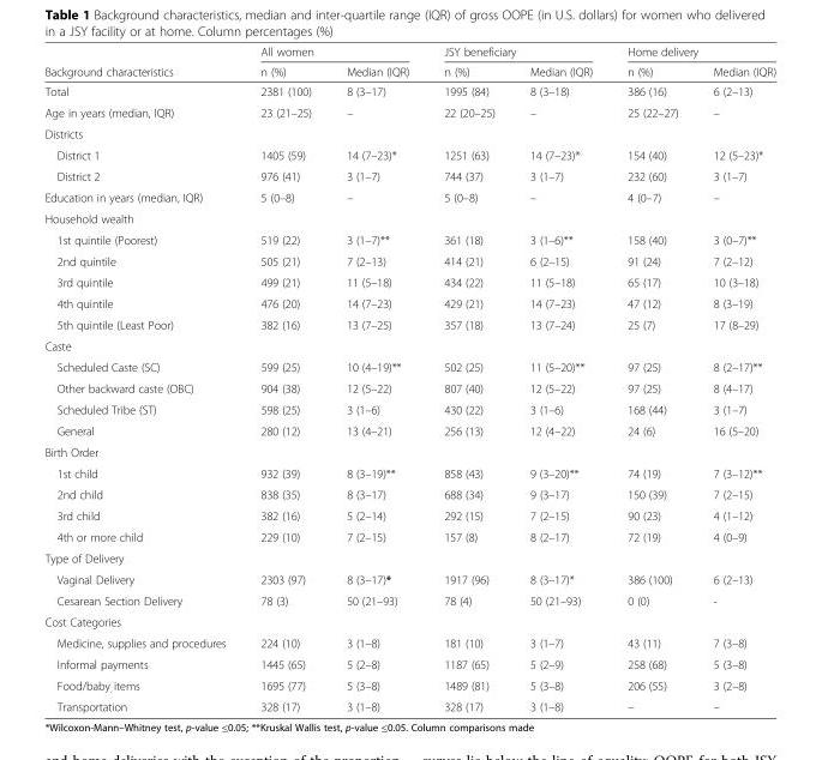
<table><thead><tr><td rowspan="2">Background characteristics</td><td colspan="2">All women</td><td colspan="2">JSY beneficiary</td><td colspan="2">Home delivery</td></tr><tr><td>n (%)</td><td>Median (IQR)</td><td>n (%)</td><td>Median (IQR)</td><td>n (%)</td><td>Median (IQR)</td></tr></thead><tbody><tr><td>Total</td><td>2381 (100)</td><td>8 (3–17)</td><td>1995 (84)</td><td>8 (3–18)</td><td>386 (16)</td><td>6 (2–13)</td></tr><tr><td>Age in years (median, IQR)</td><td>23 (21–25)</td><td>–</td><td>22 (20–25)</td><td>–</td><td>25 (22–27)</td><td>–</td></tr><tr><td colspan="7">Districts</td></tr><tr><td>District 1</td><td>1405 (59)</td><td>14 (7–23)*</td><td>1251 (63)</td><td>14 (7–23)*</td><td>154 (40)</td><td>12 (5–23)*</td></tr><tr><td>District 2</td><td>976 (41)</td><td>3 (1–7)</td><td>744 (37)</td><td>3 (1–7)</td><td>232 (60)</td><td>3 (1–7)</td></tr><tr><td>Education in years (median, IQR)</td><td>5 (0–8)</td><td>–</td><td>5 (0–8)</td><td>–</td><td>4 (0–7)</td><td>–</td></tr><tr><td colspan="7">Household wealth</td></tr><tr><td>1st quintile (Poorest)</td><td>519 (22)</td><td>3 (1–7)**</td><td>361 (18)</td><td>3 (1–6)**</td><td>158 (40)</td><td>3 (0–7)**</td></tr><tr><td>2nd quintile</td><td>505 (21)</td><td>7 (2–13)</td><td>414 (21)</td><td>6 (2–15)</td><td>91 (24)</td><td>7 (2–12)</td></tr><tr><td>3rd quintile</td><td>499 (21)</td><td>11 (5–18)</td><td>434 (22)</td><td>11 (5–18)</td><td>65 (17)</td><td>10 (3–18)</td></tr><tr><td>4th quintile</td><td>476 (20)</td><td>14 (7–23)</td><td>429 (21)</td><td>14 (7–23)</td><td>47 (12)</td><td>8 (3–19)</td></tr><tr><td>5th quintile (Least Poor)</td><td>382 (16)</td><td>13 (7–25)</td><td>357 (18)</td><td>13 (7–24)</td><td>25 (7)</td><td>17 (8–29)</td></tr><tr><td colspan="7">Caste</td></tr><tr><td>Scheduled Caste (SC)</td><td>599 (25)</td><td>10 (4–19)**</td><td>502 (25)</td><td>11 (5–20)**</td><td>97 (25)</td><td>8 (2–17)**</td></tr><tr><td>Other backward caste (OBC)</td><td>904 (38)</td><td>12 (5–22)</td><td>807 (40)</td><td>12 (5–22)</td><td>97 (25)</td><td>8 (4–17)</td></tr><tr><td>Scheduled Tribe (ST)</td><td>598 (25)</td><td>3 (1–6)</td><td>430 (22)</td><td>3 (1–6)</td><td>168 (44)</td><td>3 (1–7)</td></tr><tr><td>General</td><td>280 (12)</td><td>13 (4–21)</td><td>256 (13)</td><td>12 (4–22)</td><td>24 (6)</td><td>16 (5–20)</td></tr><tr><td colspan="7">Birth Order</td></tr><tr><td>1st child</td><td>932 (39)</td><td>8 (3–19)**</td><td>858 (43)</td><td>9 (3–20)**</td><td>74 (19)</td><td>7 (3–12)**</td></tr><tr><td>2nd child</td><td>838 (35)</td><td>8 (3–17)</td><td>688 (34)</td><td>9 (3–17)</td><td>150 (39)</td><td>7 (2–15)</td></tr><tr><td>3rd child</td><td>382 (16)</td><td>5 (2–14)</td><td>292 (15)</td><td>7 (2–15)</td><td>90 (23)</td><td>4 (1–12)</td></tr><tr><td>4th or more child</td><td>229 (10)</td><td>7 (2–15)</td><td>157 (8)</td><td>8 (2–17)</td><td>72 (19)</td><td>4 (0–9)</td></tr><tr><td colspan="7">Type of Delivery</td></tr><tr><td>Vaginal Delivery</td><td>2303 (97)</td><td>8 (3–17)*</td><td>1917 (96)</td><td>8 (3–17)*</td><td>386 (100)</td><td>6 (2–13)</td></tr><tr><td>Cesarean Section Delivery</td><td>78 (3)</td><td>50 (21–93)</td><td>78 (4)</td><td>50 (21–93)</td><td>0 (0)</td><td>-</td></tr><tr><td colspan="7">Cost Categories</td></tr><tr><td>Medicine, supplies and procedures</td><td>224 (10)</td><td>3 (1–8)</td><td>181 (10)</td><td>3 (1–7)</td><td>43 (11)</td><td>7 (3–8)</td></tr><tr><td>Informal payments</td><td>1445 (65)</td><td>5 (2–8)</td><td>1187 (65)</td><td>5 (2–9)</td><td>258 (68)</td><td>5 (3–8)</td></tr><tr><td>Food/baby items</td><td>1695 (77)</td><td>5 (3–8)</td><td>1489 (81)</td><td>5 (3–8)</td><td>206 (55)</td><td>3 (2–8)</td></tr><tr><td>Transportation</td><td>328 (17)</td><td>3 (1–8)</td><td>328 (17)</td><td>3 (1–8)</td><td>–</td><td>–</td></tr></tbody></table>